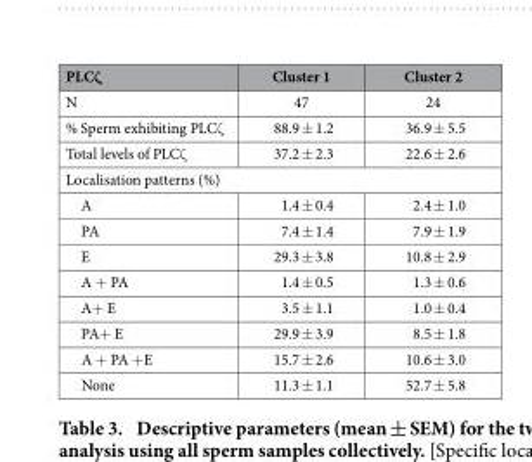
<table><thead><tr><td>PLCζ</td><td>Cluster 1</td><td>Cluster 2</td></tr></thead><tbody><tr><td>N</td><td>47</td><td>24</td></tr><tr><td>% Sperm exhibiting PLCζ</td><td>88.9 ± 1.2</td><td>36.9 ± 5.5</td></tr><tr><td>Total levels of PLCζ</td><td>37.2 ± 2.3</td><td>22.6 ± 2.6</td></tr><tr><td colspan="3">Localisation patterns (%)</td></tr><tr><td>A</td><td>1.4 ± 0.4</td><td>2.4 ± 1.0</td></tr><tr><td>PA</td><td>7.4 ± 1.4</td><td>7.9 ± 1.9</td></tr><tr><td>E</td><td>29.3 ± 3.8</td><td>10.8 ± 2.9</td></tr><tr><td>A + PA</td><td>1.4 ± 0.5</td><td>1.3 ± 0.6</td></tr><tr><td>A+ E</td><td>3.5 ± 1.1</td><td>1.0 ± 0.4</td></tr><tr><td>PA+ E</td><td>29.9 ± 3.9</td><td>8.5 ± 1.8</td></tr><tr><td>A + PA + E</td><td>15.7 ± 2.6</td><td>10.6 ± 3.0</td></tr><tr><td>None</td><td>11.3 ± 1.1</td><td>52.7 ± 5.8</td></tr></tbody></table>